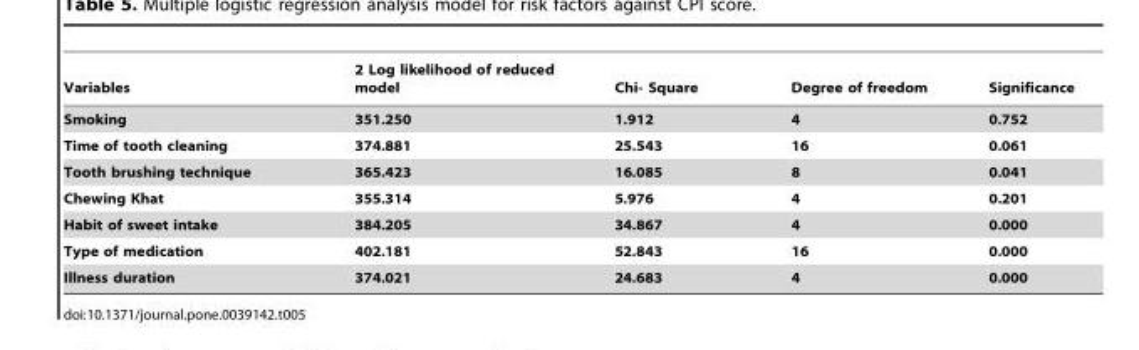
<table><thead><tr><td>Variables</td><td>2 Log likelihood of reduced model</td><td>Chi- Square</td><td>Degree of freedom</td><td>Significance</td></tr></thead><tbody><tr><td>Smoking</td><td>351.250</td><td>1.912</td><td>4</td><td>0.752</td></tr><tr><td>Time of tooth cleaning</td><td>374.881</td><td>25.543</td><td>16</td><td>0.061</td></tr><tr><td>Tooth brushing technique</td><td>365.423</td><td>16.085</td><td>8</td><td>0.041</td></tr><tr><td>Chewing Khat</td><td>355.314</td><td>5.976</td><td>4</td><td>0.201</td></tr><tr><td>Habit of sweet intake</td><td>384.205</td><td>34.867</td><td>4</td><td>0.000</td></tr><tr><td>Type of medication</td><td>402.181</td><td>52.843</td><td>16</td><td>0.000</td></tr><tr><td>Illness duration</td><td>374.021</td><td>24.683</td><td>4</td><td>0.000</td></tr></tbody></table>